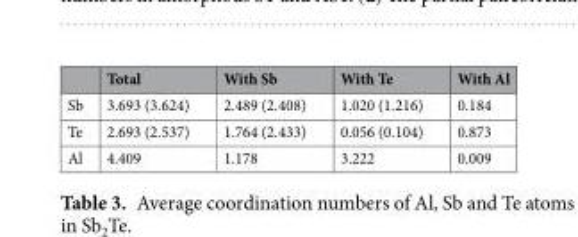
<table><thead><tr><td></td><td>Total</td><td>With Sb</td><td>With Te</td><td>With Al</td></tr></thead><tbody><tr><td>Sb</td><td>3.693 (3.624)</td><td>2.489 (2.408)</td><td>1.020 (1.216)</td><td>0.184</td></tr><tr><td>Te</td><td>2.693 (2.537)</td><td>1.764 (2.433)</td><td>0.056 (0.104)</td><td>0.873</td></tr><tr><td>Al</td><td>4.409</td><td>1.178</td><td>3.222</td><td>0.009</td></tr></tbody></table>